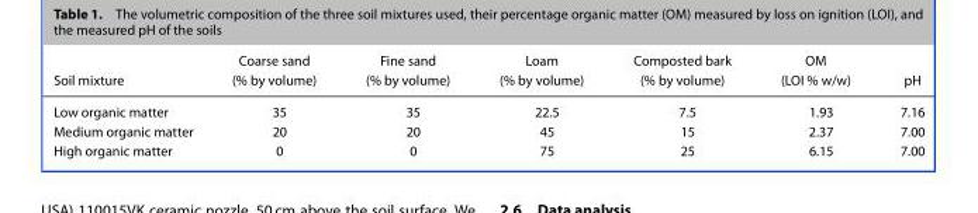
<table><thead><tr><td>Soil mixture</td><td>Coarse sand (% by volume)</td><td>Fine sand (% by volume)</td><td>Loam (% by volume)</td><td>Composted bark (% by volume)</td><td>OM (LOI % w/w)</td><td>pH</td></tr></thead><tbody><tr><td>Low organic matter</td><td>35</td><td>35</td><td>22.5</td><td>7.5</td><td>1.93</td><td>7.16</td></tr><tr><td>Medium organic matter</td><td>20</td><td>20</td><td>45</td><td>15</td><td>2.37</td><td>7.00</td></tr><tr><td>High organic matter</td><td>0</td><td>0</td><td>75</td><td>25</td><td>6.15</td><td>7.00</td></tr></tbody></table>